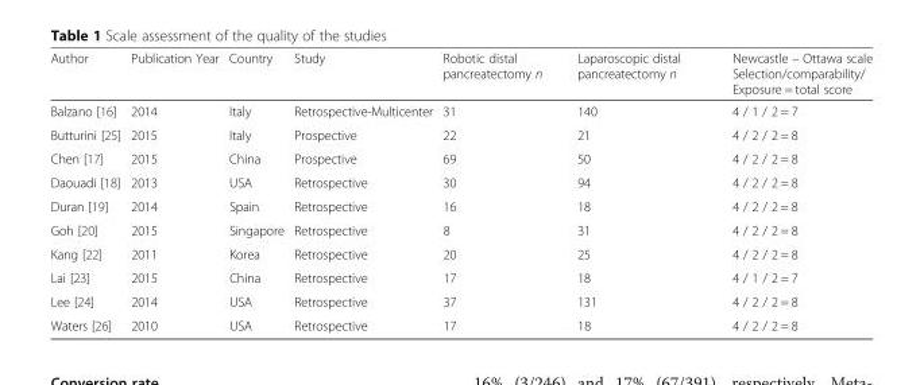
<table><thead><tr><td>Author</td><td>Publication Year</td><td>Country</td><td>Study</td><td>Robotic distal pancreatectomy n</td><td>Laparoscopic distal pancreatectomy n</td><td>Newcastle – Ottawa scale Selection/comparability/ Exposure = total score</td></tr></thead><tbody><tr><td>Balzano [16]</td><td>2014</td><td>Italy</td><td>Retrospective-Multicenter</td><td>31</td><td>140</td><td>4 / 1 / 2 = 7</td></tr><tr><td>Butturini [25]</td><td>2015</td><td>Italy</td><td>Prospective</td><td>22</td><td>21</td><td>4 / 2 / 2 = 8</td></tr><tr><td>Chen [17]</td><td>2015</td><td>China</td><td>Prospective</td><td>69</td><td>50</td><td>4 / 2 / 2 = 8</td></tr><tr><td>Daouadi [18]</td><td>2013</td><td>USA</td><td>Retrospective</td><td>30</td><td>94</td><td>4 / 2 / 2 = 8</td></tr><tr><td>Duran [19]</td><td>2014</td><td>Spain</td><td>Retrospective</td><td>16</td><td>18</td><td>4 / 2 / 2 = 8</td></tr><tr><td>Goh [20]</td><td>2015</td><td>Singapore</td><td>Retrospective</td><td>8</td><td>31</td><td>4 / 2 / 2 = 8</td></tr><tr><td>Kang [22]</td><td>2011</td><td>Korea</td><td>Retrospective</td><td>20</td><td>25</td><td>4 / 2 / 2 = 8</td></tr><tr><td>Lai [23]</td><td>2015</td><td>China</td><td>Retrospective</td><td>17</td><td>18</td><td>4 / 1 / 2 = 7</td></tr><tr><td>Lee [24]</td><td>2014</td><td>USA</td><td>Retrospective</td><td>37</td><td>131</td><td>4 / 2 / 2 = 8</td></tr><tr><td>Waters [26]</td><td>2010</td><td>USA</td><td>Retrospective</td><td>17</td><td>18</td><td>4 / 2 / 2 = 8</td></tr></tbody></table>